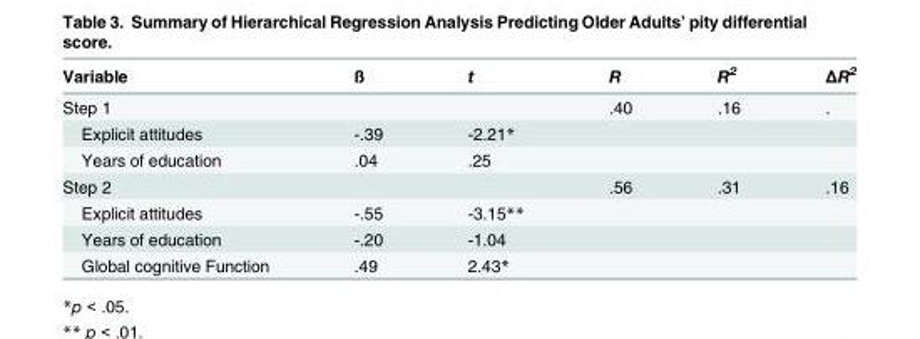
<table><thead><tr><td>Variable</td><td>ß</td><td>t</td><td>R</td><td>R<sup>2</sup></td><td>ΔR<sup>2</sup></td></tr></thead><tbody><tr><td>Step 1</td><td></td><td></td><td>.40</td><td>.16</td><td>.</td></tr><tr><td>Explicit attitudes</td><td>-.39</td><td>-2.21*</td><td></td><td></td><td></td></tr><tr><td>Years of education</td><td>.04</td><td>.25</td><td></td><td></td><td></td></tr><tr><td>Step 2</td><td></td><td></td><td>.56</td><td>.31</td><td>.16</td></tr><tr><td>Explicit attitudes</td><td>-.55</td><td>-3.15**</td><td></td><td></td><td></td></tr><tr><td>Years of education</td><td>-.20</td><td>-1.04</td><td></td><td></td><td></td></tr><tr><td>Global cognitive Function</td><td>.49</td><td>2.43*</td><td></td><td></td><td></td></tr></tbody></table>